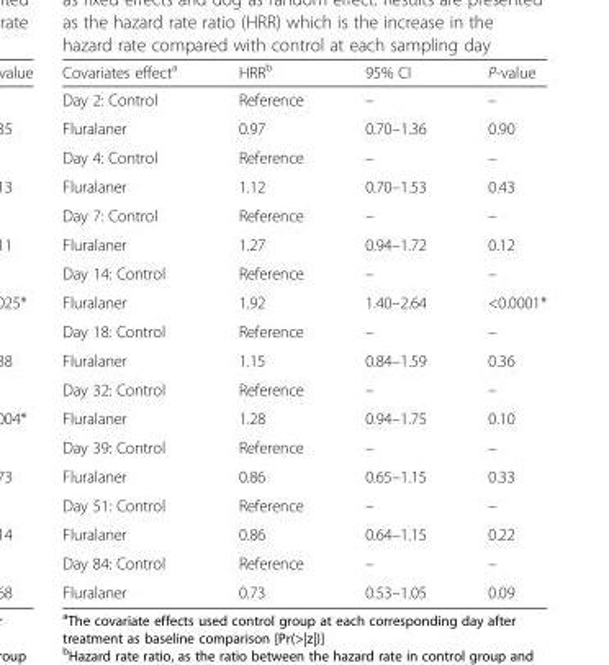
<table><thead><tr><td>Covariates effect<sup>a</sup></td><td>HRR<sup>b</sup></td><td>95% CI</td><td>P-value</td></tr></thead><tbody><tr><td>Day 2: Control</td><td>Reference</td><td>–</td><td>–</td></tr><tr><td>Fluralaner</td><td>0.97</td><td>0.70–1.36</td><td>0.90</td></tr><tr><td>Day 4: Control</td><td>Reference</td><td>–</td><td>–</td></tr><tr><td>Fluralaner</td><td>1.12</td><td>0.70–1.53</td><td>0.43</td></tr><tr><td>Day 7: Control</td><td>Reference</td><td>–</td><td>–</td></tr><tr><td>Fluralaner</td><td>1.27</td><td>0.94–1.72</td><td>0.12</td></tr><tr><td>Day 14: Control</td><td>Reference</td><td>–</td><td>–</td></tr><tr><td>Fluralaner</td><td>1.92</td><td>1.40–2.64</td><td>&lt;0.0001*</td></tr><tr><td>Day 18: Control</td><td>Reference</td><td>–</td><td>–</td></tr><tr><td>Fluralaner</td><td>1.15</td><td>0.84–1.59</td><td>0.36</td></tr><tr><td>Day 32: Control</td><td>Reference</td><td>–</td><td>–</td></tr><tr><td>Fluralaner</td><td>1.28</td><td>0.94–1.75</td><td>0.10</td></tr><tr><td>Day 39: Control</td><td>Reference</td><td>–</td><td>–</td></tr><tr><td>Fluralaner</td><td>0.86</td><td>0.65–1.15</td><td>0.33</td></tr><tr><td>Day 51: Control</td><td>Reference</td><td>–</td><td>–</td></tr><tr><td>Fluralaner</td><td>0.86</td><td>0.64–1.15</td><td>0.22</td></tr><tr><td>Day 84: Control</td><td>Reference</td><td>–</td><td>–</td></tr><tr><td>Fluralaner</td><td>0.73</td><td>0.53–1.05</td><td>0.09</td></tr></tbody></table>